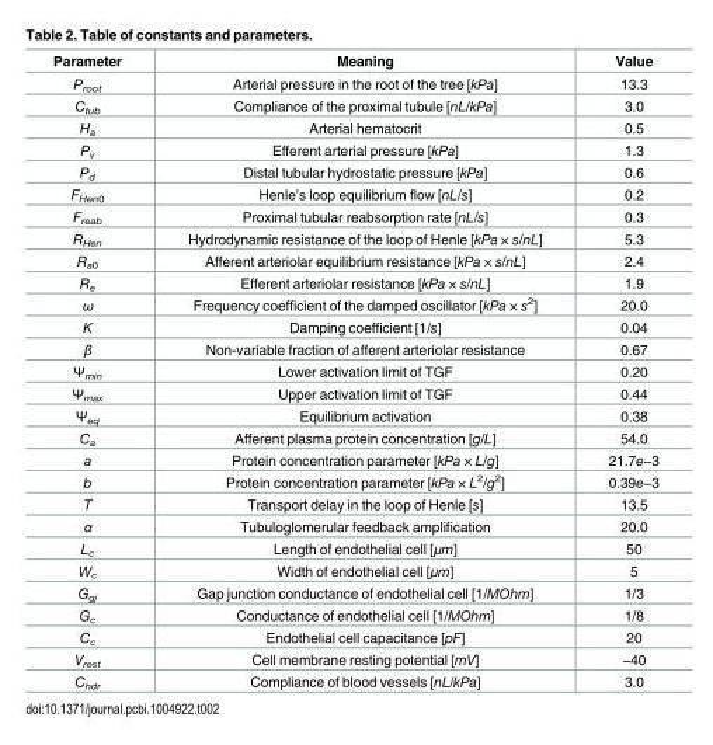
<table><thead><tr><td>Parameter</td><td>Meaning</td><td>Value</td></tr></thead><tbody><tr><td>P<sub>root</sub></td><td>Arterial pressure in the root of the tree [kPa]</td><td>13.3</td></tr><tr><td>C<sub>tub</sub></td><td>Compliance of the proximal tubule [nL/kPa]</td><td>3.0</td></tr><tr><td>H<sub>a</sub></td><td>Arterial hematocrit</td><td>0.5</td></tr><tr><td>P<sub>v</sub></td><td>Efferent arterial pressure [kPa]</td><td>1.3</td></tr><tr><td>P<sub>d</sub></td><td>Distal tubular hydrostatic pressure [kPa]</td><td>0.6</td></tr><tr><td>F<sub>Hen0</sub></td><td>Henle’s loop equilibrium flow [nL/s]</td><td>0.2</td></tr><tr><td>F<sub>reab</sub></td><td>Proximal tubular reabsorption rate [nL/s]</td><td>0.3</td></tr><tr><td>R<sub>Hen</sub></td><td>Hydrodynamic resistance of the loop of Henle [kPa × s/nL]</td><td>5.3</td></tr><tr><td>R<sub>a0</sub></td><td>Afferent arteriolar equilibrium resistance [kPa × s/nL]</td><td>2.4</td></tr><tr><td>R<sub>e</sub></td><td>Efferent arteriolar resistance [kPa × s/nL]</td><td>1.9</td></tr><tr><td>ω</td><td>Frequency coefficient of the damped oscillator [kPa × s<sup>2</sup>]</td><td>20.0</td></tr><tr><td>K</td><td>Damping coefficient [1/s]</td><td>0.04</td></tr><tr><td>β</td><td>Non-variable fraction of afferent arteriolar resistance</td><td>0.67</td></tr><tr><td>Ψ<sub>min</sub></td><td>Lower activation limit of TGF</td><td>0.20</td></tr><tr><td>Ψ<sub>max</sub></td><td>Upper activation limit of TGF</td><td>0.44</td></tr><tr><td>Ψ<sub>eq</sub></td><td>Equilibrium activation</td><td>0.38</td></tr><tr><td>C<sub>a</sub></td><td>Afferent plasma protein concentration [g/L]</td><td>54.0</td></tr><tr><td>a</td><td>Protein concentration parameter [kPa × L/g]</td><td>21.7e−3</td></tr><tr><td>b</td><td>Protein concentration parameter [kPa × L<sup>2</sup>/g<sup>2</sup>]</td><td>0.39e−3</td></tr><tr><td>T</td><td>Transport delay in the loop of Henle [s]</td><td>13.5</td></tr><tr><td>α</td><td>Tubuloglomerular feedback amplification</td><td>20.0</td></tr><tr><td>L<sub>c</sub></td><td>Length of endothelial cell [μm]</td><td>50</td></tr><tr><td>W<sub>c</sub></td><td>Width of endothelial cell [μm]</td><td>5</td></tr><tr><td>G<sub>gj</sub></td><td>Gap junction conductance of endothelial cell [1/MOhm]</td><td>1/3</td></tr><tr><td>G<sub>c</sub></td><td>Conductance of endothelial cell [1/MOhm]</td><td>1/8</td></tr><tr><td>C<sub>c</sub></td><td>Endothelial cell capacitance [pF]</td><td>20</td></tr><tr><td>V<sub>rest</sub></td><td>Cell membrane resting potential [mV]</td><td>−40</td></tr><tr><td>C<sub>hdr</sub></td><td>Compliance of blood vessels [nL/kPa]</td><td>3.0</td></tr></tbody></table>